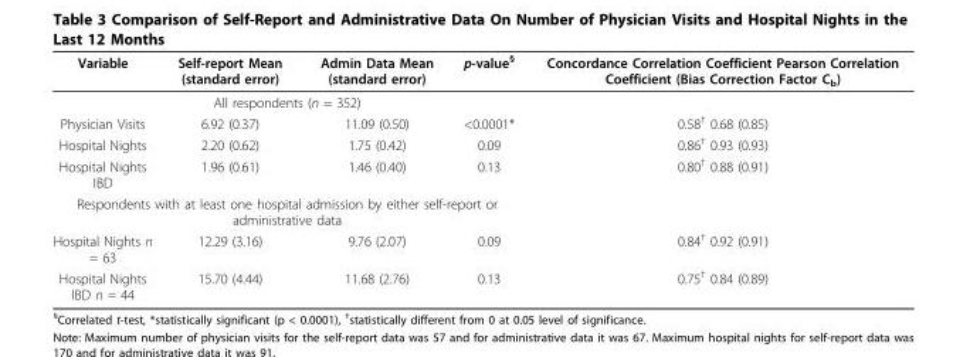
<table><thead><tr><td>Variable</td><td>Self-report Mean (standard error)</td><td>Admin Data Mean (standard error)</td><td>p-value<sup>§</sup></td><td>Concordance Correlation Coefficient Pearson Correlation Coefficient (Bias Correction Factor C<sub>b</sub>)</td></tr></thead><tbody><tr><td colspan="5">All respondents (n = 352)</td></tr><tr><td>Physician Visits</td><td>6.92 (0.37)</td><td>11.09 (0.50)</td><td>&lt;0.0001*</td><td>0.58<sup>†</sup> 0.68 (0.85)</td></tr><tr><td>Hospital Nights</td><td>2.20 (0.62)</td><td>1.75 (0.42)</td><td>0.09</td><td>0.86<sup>†</sup> 0.93 (0.93)</td></tr><tr><td>Hospital Nights IBD</td><td>1.96 (0.61)</td><td>1.46 (0.40)</td><td>0.13</td><td>0.80<sup>†</sup> 0.88 (0.91)</td></tr><tr><td colspan="5">Respondents with at least one hospital admission by either self-report or administrative data</td></tr><tr><td>Hospital Nights n = 63</td><td>12.29 (3.16)</td><td>9.76 (2.07)</td><td>0.09</td><td>0.84<sup>†</sup> 0.92 (0.91)</td></tr><tr><td>Hospital Nights IBD n = 44</td><td>15.70 (4.44)</td><td>11.68 (2.76)</td><td>0.13</td><td>0.75<sup>†</sup> 0.84 (0.89)</td></tr></tbody></table>